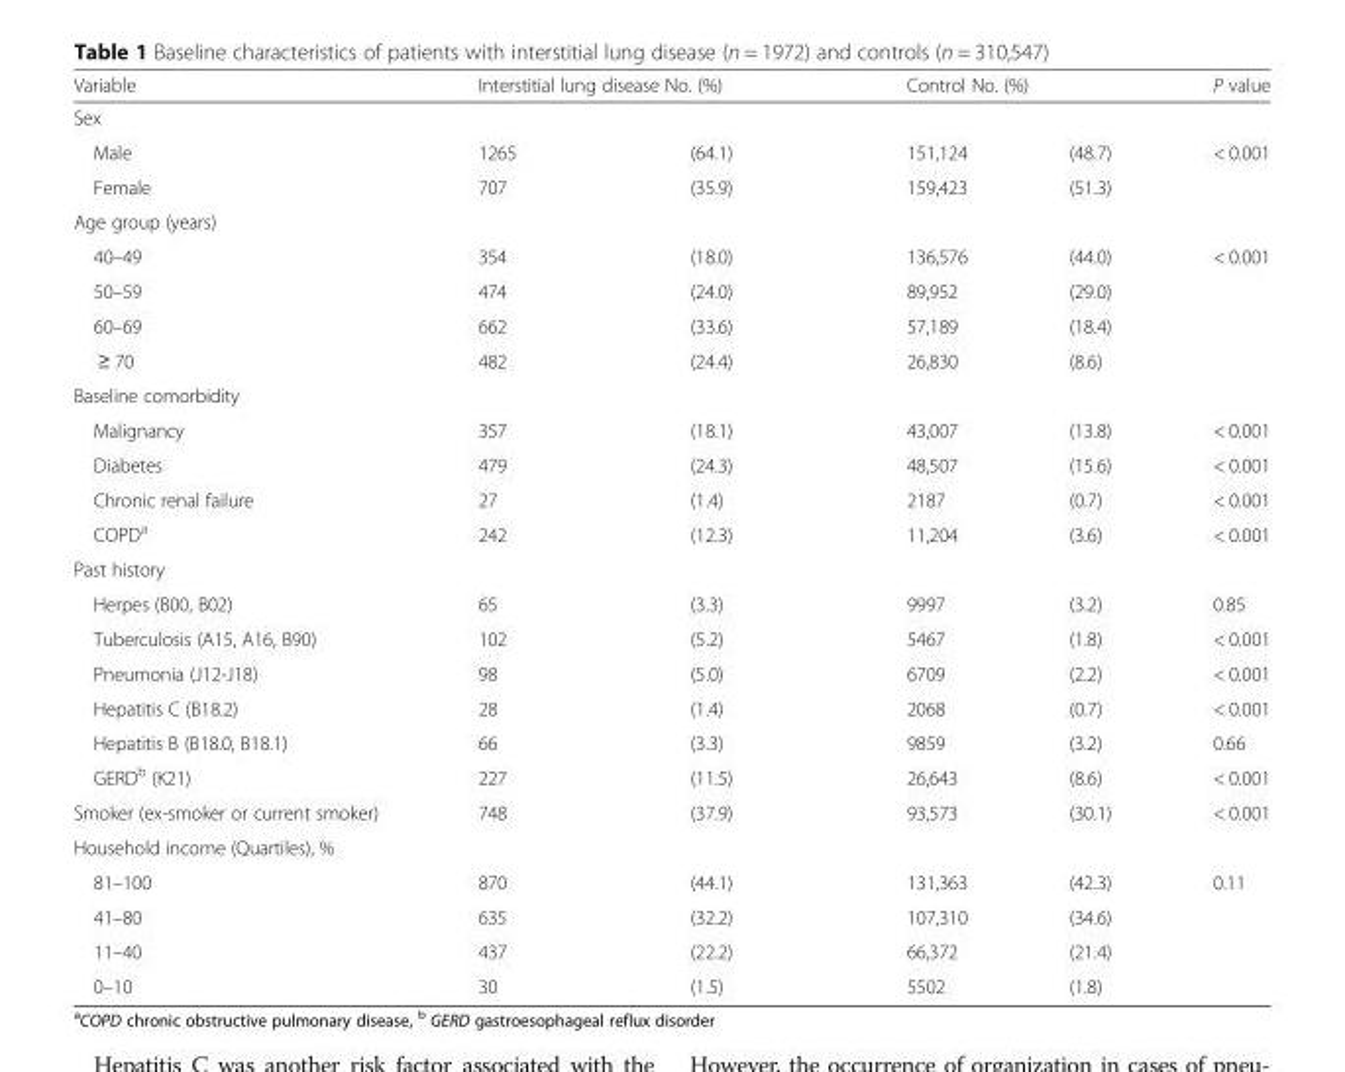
<table><thead><tr><td>Variable</td><td colspan="2">Interstitial lung disease No. (%)</td><td colspan="2">Control No. (%)</td><td>P value</td></tr><tr><td colspan="6">Sex</td></tr><tr><td>Male</td><td>1265</td><td>(64.1)</td><td>151,124</td><td>(48.7)</td><td>&lt; 0.001</td></tr></thead><tbody><tr><td>Female</td><td>707</td><td>(35.9)</td><td>159,423</td><td>(51.3)</td><td></td></tr><tr><td colspan="6">Age group (years)</td></tr><tr><td>40–49</td><td>354</td><td>(18.0)</td><td>136,576</td><td>(44.0)</td><td>&lt; 0.001</td></tr><tr><td>50–59</td><td>474</td><td>(24.0)</td><td>89,952</td><td>(29.0)</td><td></td></tr><tr><td>60–69</td><td>662</td><td>(33.6)</td><td>57,189</td><td>(18.4)</td><td></td></tr><tr><td>≥ 70</td><td>482</td><td>(24.4)</td><td>26,830</td><td>(8.6)</td><td></td></tr><tr><td colspan="6">Baseline comorbidity</td></tr><tr><td>Malignancy</td><td>357</td><td>(18.1)</td><td>43,007</td><td>(13.8)</td><td>&lt; 0.001</td></tr><tr><td>Diabetes</td><td>479</td><td>(24.3)</td><td>48,507</td><td>(15.6)</td><td>&lt; 0.001</td></tr><tr><td>Chronic renal failure</td><td>27</td><td>(1.4)</td><td>2187</td><td>(0.7)</td><td>&lt; 0.001</td></tr><tr><td>COPD<sup>a</sup></td><td>242</td><td>(12.3)</td><td>11,204</td><td>(3.6)</td><td>&lt; 0.001</td></tr><tr><td colspan="6">Past history</td></tr><tr><td>Herpes (B00, B02)</td><td>65</td><td>(3.3)</td><td>9997</td><td>(3.2)</td><td>0.85</td></tr><tr><td>Tuberculosis (A15, A16, B90)</td><td>102</td><td>(5.2)</td><td>5467</td><td>(1.8)</td><td>&lt; 0.001</td></tr><tr><td>Pneumonia (J12-J18)</td><td>98</td><td>(5.0)</td><td>6709</td><td>(2.2)</td><td>&lt; 0.001</td></tr><tr><td>Hepatitis C (B18.2)</td><td>28</td><td>(1.4)</td><td>2068</td><td>(0.7)</td><td>&lt; 0.001</td></tr><tr><td>Hepatitis B (B18.0, B18.1)</td><td>66</td><td>(3.3)</td><td>9859</td><td>(3.2)</td><td>0.66</td></tr><tr><td>GERD<sup>b</sup> (K21)</td><td>227</td><td>(11.5)</td><td>26,643</td><td>(8.6)</td><td>&lt; 0.001</td></tr><tr><td>Smoker (ex-smoker or current smoker)</td><td>748</td><td>(37.9)</td><td>93,573</td><td>(30.1)</td><td>&lt; 0.001</td></tr><tr><td colspan="6">Household income (Quartiles), %</td></tr><tr><td>81–100</td><td>870</td><td>(44.1)</td><td>131,363</td><td>(42.3)</td><td>0.11</td></tr><tr><td>41–80</td><td>635</td><td>(32.2)</td><td>107,310</td><td>(34.6)</td><td></td></tr><tr><td>11–40</td><td>437</td><td>(22.2)</td><td>66,372</td><td>(21.4)</td><td></td></tr><tr><td>0–10</td><td>30</td><td>(1.5)</td><td>5502</td><td>(1.8)</td><td></td></tr></tbody></table>